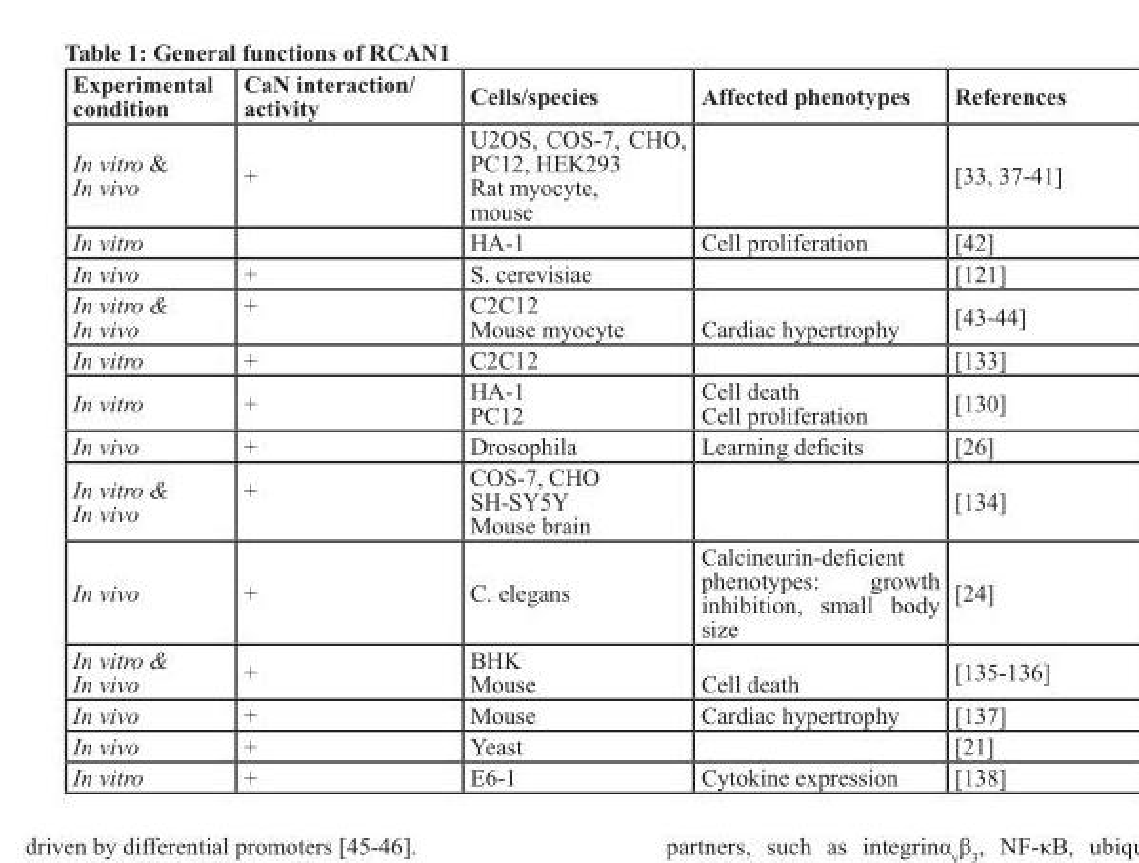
<table><thead><tr><td>Experimental condition</td><td>CaN interaction/ activity</td><td>Cells/species</td><td>Affected phenotypes</td><td>References</td></tr></thead><tbody><tr><td>In vitro &amp; In vivo</td><td>+</td><td>U2OS, COS-7, CHO, PC12, HEK293 Rat myocyte, mouse</td><td></td><td>[33, 37-41]</td></tr><tr><td>In vitro</td><td></td><td>HA-1</td><td>Cell proliferation</td><td>[42]</td></tr><tr><td>In vivo</td><td>+</td><td>S. cerevisiae</td><td></td><td>[121]</td></tr><tr><td>In vitro &amp; In vivo</td><td>+</td><td>C2C12 Mouse myocyte</td><td>Cardiac hypertrophy</td><td>[43-44]</td></tr><tr><td>In vitro</td><td>+</td><td>C2C12</td><td></td><td>[133]</td></tr><tr><td>In vitro</td><td>+</td><td>HA-1 PC12</td><td>Cell death Cell proliferation</td><td>[130]</td></tr><tr><td>In vivo</td><td>+</td><td>Drosophila</td><td>Learning deficits</td><td>[26]</td></tr><tr><td>In vitro &amp; In vivo</td><td>+</td><td>COS-7, CHO SH-SY5Y Mouse brain</td><td></td><td>[134]</td></tr><tr><td>In vivo</td><td>+</td><td>C. elegans</td><td>Calcineurin-deficient phenotypes: growth inhibition, small body size</td><td>[24]</td></tr><tr><td>In vitro &amp; In vivo</td><td>+</td><td>BHK Mouse</td><td>Cell death</td><td>[135-136]</td></tr><tr><td>In vivo</td><td>+</td><td>Mouse</td><td>Cardiac hypertrophy</td><td>[137]</td></tr><tr><td>In vivo</td><td>+</td><td>Yeast</td><td></td><td>[21]</td></tr><tr><td>In vitro</td><td>+</td><td>E6-1</td><td>Cytokine expression</td><td>[138]</td></tr></tbody></table>